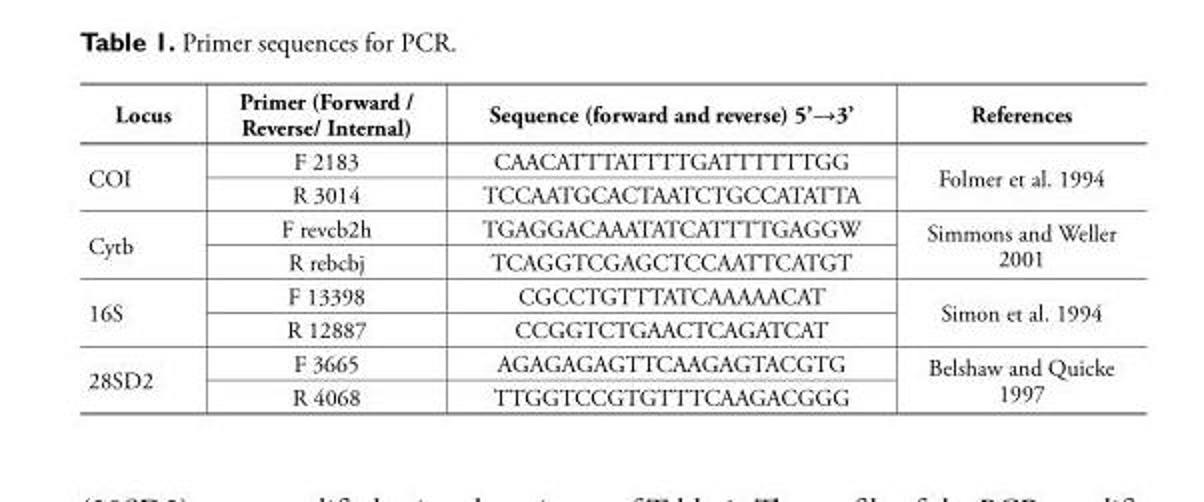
<table><thead><tr><td>Locus</td><td>Primer (Forward / Reverse/ Internal)</td><td>Sequence (forward and reverse) 5’→3’</td><td>References</td></tr></thead><tbody><tr><td rowspan="2">COI</td><td>F 2183</td><td>CAACATTTATTTTGATTTTTTGG</td><td rowspan="2">Folmer et al. 1994</td></tr><tr><td>R 3014</td><td>TCCAATGCACTAATCTGCCATATTA</td></tr><tr><td rowspan="2">Cytb</td><td>F revcb2h</td><td>TGAGGACAAATATCATTTTGAGGW</td><td rowspan="2">Simmons and Weller 2001</td></tr><tr><td>R rebcbj</td><td>TCAGGTCGAGCTCCAATTCATGT</td></tr><tr><td rowspan="2">16S</td><td>F 13398</td><td>CGCCTGTTTATCAAAAACAT</td><td rowspan="2">Simon et al. 1994</td></tr><tr><td>R 12887</td><td>CCGGTCTGAACTCAGATCAT</td></tr><tr><td rowspan="2">28SD2</td><td>F 3665</td><td>AGAGAGAGTTCAAGAGTACGTG</td><td rowspan="2">Belshaw and Quicke 1997</td></tr><tr><td>R 4068</td><td>TTGGTCCGTGTTTCAAGACGGG</td></tr></tbody></table>